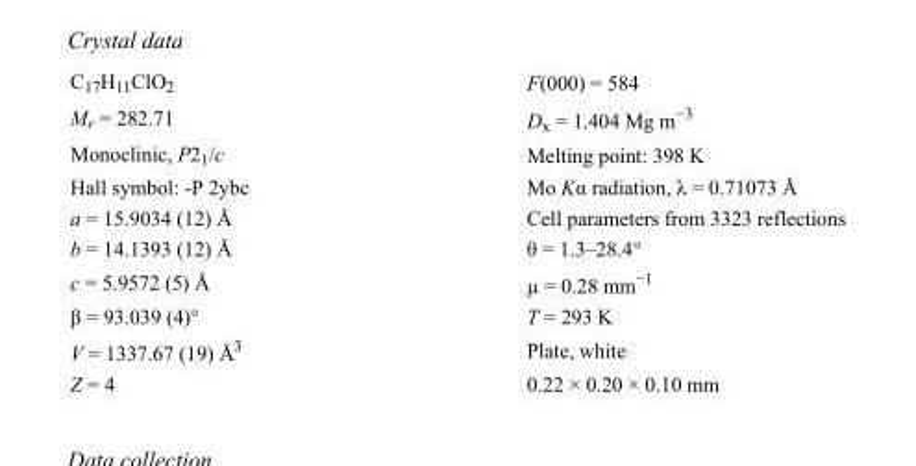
<table><tbody><tr><td>C<sub>17</sub>H<sub>11</sub>ClO<sub>2</sub></td><td>F(000) = 584</td></tr><tr><td>M<sub>r</sub> = 282.71</td><td>D<sub>x</sub> = 1.404 Mg m<sup>−3</sup></td></tr><tr><td>Monoclinic, P2<sub>1</sub>/c</td><td>Melting point: 398 K</td></tr><tr><td>Hall symbol: -P 2ybc</td><td>Mo Kα radiation, λ = 0.71073 Å</td></tr><tr><td>a = 15.9034 (12) Å</td><td>Cell parameters from 3323 reflections</td></tr><tr><td>b = 14.1393 (12) Å</td><td>θ = 1.3–28.4°</td></tr><tr><td>c = 5.9572 (5) Å</td><td>µ = 0.28 mm<sup>−1</sup></td></tr><tr><td>β = 93.039 (4)°</td><td>T = 293 K</td></tr><tr><td>V = 1337.67 (19) Å<sup>3</sup></td><td>Plate, white</td></tr><tr><td>Z = 4</td><td>0.22 × 0.20 × 0.10 mm</td></tr></tbody></table>